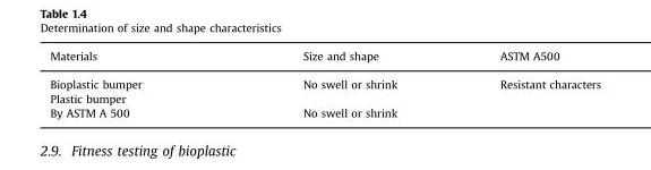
<table><thead><tr><td>Materials</td><td>Size and shape</td><td>ASTM A500</td></tr></thead><tbody><tr><td>Bioplastic bumper</td><td>No swell or shrink</td><td>Resistant characters</td></tr><tr><td colspan="3">Plastic bumper</td></tr><tr><td>By ASTM A 500</td><td>No swell or shrink</td><td></td></tr></tbody></table>